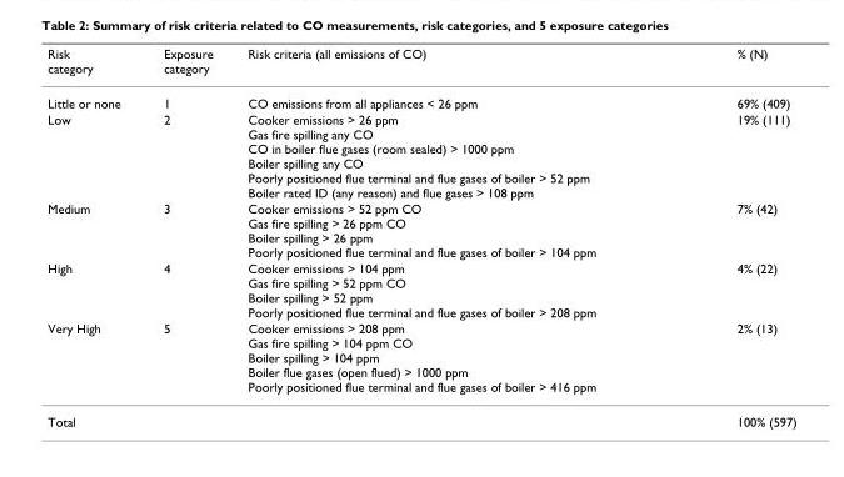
<table><thead><tr><td>Risk category</td><td>Exposure category</td><td>Risk criteria (all emissions of CO)</td><td>% (N)</td></tr></thead><tbody><tr><td>Little or none</td><td>1</td><td>CO emissions from all appliances &lt; 26 ppm</td><td>69% (409)</td></tr><tr><td>Low</td><td>2</td><td>Cooker emissions &gt; 26 ppm Gas fire spilling any CO CO in boiler flue gases (room sealed) &gt; 1000 ppm Boiler spilling any CO Poorly positioned flue terminal and flue gases of boiler &gt; 52 ppm Boiler rated ID (any reason) and flue gases &gt; 108 ppm</td><td>19% (111)</td></tr><tr><td>Medium</td><td>3</td><td>Cooker emissions &gt; 52 ppm CO Gas fire spilling &gt; 26 ppm CO Boiler spilling &gt; 26 ppm Poorly positioned flue terminal and flue gases of boiler &gt; 104 ppm</td><td>7% (42)</td></tr><tr><td>High</td><td>4</td><td>Cooker emissions &gt; 104 ppm Gas fire spilling &gt; 52 ppm CO Boiler spilling &gt; 52 ppm Poorly positioned flue terminal and flue gases of boiler &gt; 208 ppm</td><td>4% (22)</td></tr><tr><td>Very High</td><td>5</td><td>Cooker emissions &gt; 208 ppm Gas fire spilling &gt; 104 ppm CO Boiler spilling &gt; 104 ppm Boiler flue gases (open flued) &gt; 1000 ppm Poorly positioned flue terminal and flue gases of boiler &gt; 416 ppm</td><td>2% (13)</td></tr><tr><td>Total</td><td></td><td></td><td>100% (597)</td></tr></tbody></table>